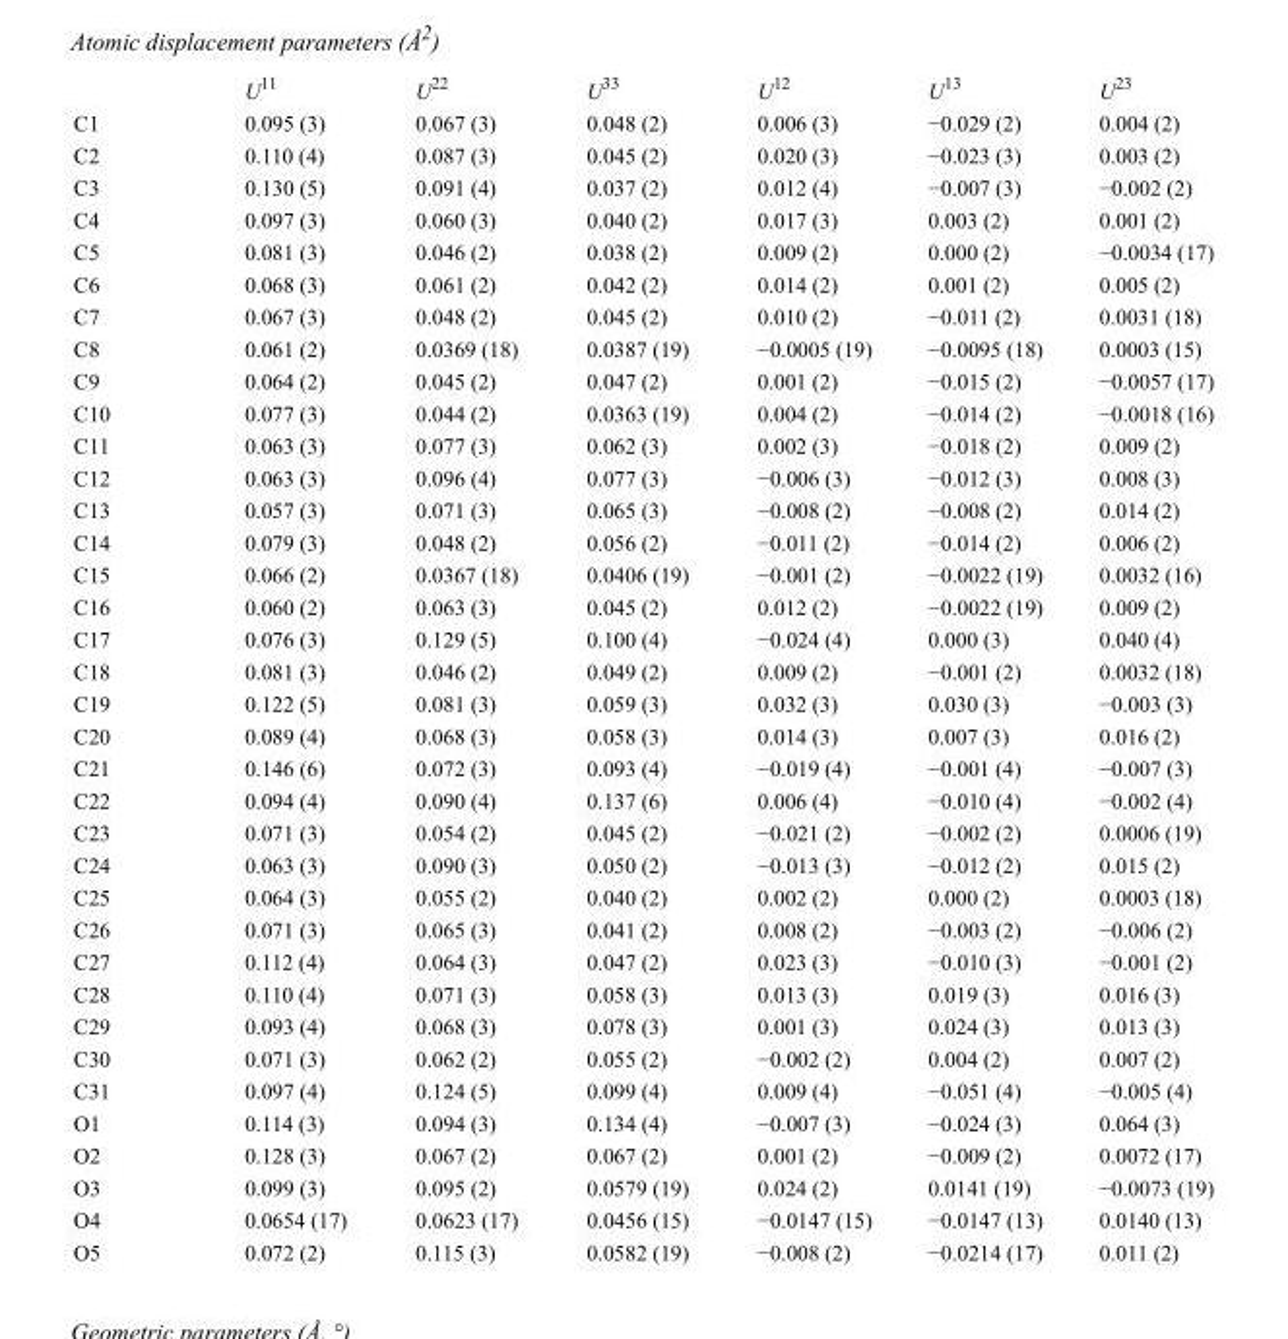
<table><thead><tr><td></td><td>U<sup>11</sup></td><td>U<sup>22</sup></td><td>U<sup>33</sup></td><td>U<sup>12</sup></td><td>U<sup>13</sup></td><td>U<sup>23</sup></td></tr></thead><tbody><tr><td>C1</td><td>0.095 (3)</td><td>0.067 (3)</td><td>0.048 (2)</td><td>0.006 (3)</td><td>−0.029 (2)</td><td>0.004 (2)</td></tr><tr><td>C2</td><td>0.110 (4)</td><td>0.087 (3)</td><td>0.045 (2)</td><td>0.020 (3)</td><td>−0.023 (3)</td><td>0.003 (2)</td></tr><tr><td>C3</td><td>0.130 (5)</td><td>0.091 (4)</td><td>0.037 (2)</td><td>0.012 (4)</td><td>−0.007 (3)</td><td>−0.002 (2)</td></tr><tr><td>C4</td><td>0.097 (3)</td><td>0.060 (3)</td><td>0.040 (2)</td><td>0.017 (3)</td><td>0.003 (2)</td><td>0.001 (2)</td></tr><tr><td>C5</td><td>0.081 (3)</td><td>0.046 (2)</td><td>0.038 (2)</td><td>0.009 (2)</td><td>0.000 (2)</td><td>−0.0034 (17)</td></tr><tr><td>C6</td><td>0.068 (3)</td><td>0.061 (2)</td><td>0.042 (2)</td><td>0.014 (2)</td><td>0.001 (2)</td><td>0.005 (2)</td></tr><tr><td>C7</td><td>0.067 (3)</td><td>0.048 (2)</td><td>0.045 (2)</td><td>0.010 (2)</td><td>−0.011 (2)</td><td>0.0031 (18)</td></tr><tr><td>C8</td><td>0.061 (2)</td><td>0.0369 (18)</td><td>0.0387 (19)</td><td>−0.0005 (19)</td><td>−0.0095 (18)</td><td>0.0003 (15)</td></tr><tr><td>C9</td><td>0.064 (2)</td><td>0.045 (2)</td><td>0.047 (2)</td><td>0.001 (2)</td><td>−0.015 (2)</td><td>−0.0057 (17)</td></tr><tr><td>C10</td><td>0.077 (3)</td><td>0.044 (2)</td><td>0.0363 (19)</td><td>0.004 (2)</td><td>−0.014 (2)</td><td>−0.0018 (16)</td></tr><tr><td>C11</td><td>0.063 (3)</td><td>0.077 (3)</td><td>0.062 (3)</td><td>0.002 (3)</td><td>−0.018 (2)</td><td>0.009 (2)</td></tr><tr><td>C12</td><td>0.063 (3)</td><td>0.096 (4)</td><td>0.077 (3)</td><td>−0.006 (3)</td><td>−0.012 (3)</td><td>0.008 (3)</td></tr><tr><td>C13</td><td>0.057 (3)</td><td>0.071 (3)</td><td>0.065 (3)</td><td>−0.008 (2)</td><td>−0.008 (2)</td><td>0.014 (2)</td></tr><tr><td>C14</td><td>0.079 (3)</td><td>0.048 (2)</td><td>0.056 (2)</td><td>−0.011 (2)</td><td>−0.014 (2)</td><td>0.006 (2)</td></tr><tr><td>C15</td><td>0.066 (2)</td><td>0.0367 (18)</td><td>0.0406 (19)</td><td>−0.001 (2)</td><td>−0.0022 (19)</td><td>0.0032 (16)</td></tr><tr><td>C16</td><td>0.060 (2)</td><td>0.063 (3)</td><td>0.045 (2)</td><td>0.012 (2)</td><td>−0.0022 (19)</td><td>0.009 (2)</td></tr><tr><td>C17</td><td>0.076 (3)</td><td>0.129 (5)</td><td>0.100 (4)</td><td>−0.024 (4)</td><td>0.000 (3)</td><td>0.040 (4)</td></tr><tr><td>C18</td><td>0.081 (3)</td><td>0.046 (2)</td><td>0.049 (2)</td><td>0.009 (2)</td><td>−0.001 (2)</td><td>0.0032 (18)</td></tr><tr><td>C19</td><td>0.122 (5)</td><td>0.081 (3)</td><td>0.059 (3)</td><td>0.032 (3)</td><td>0.030 (3)</td><td>−0.003 (3)</td></tr><tr><td>C20</td><td>0.089 (4)</td><td>0.068 (3)</td><td>0.058 (3)</td><td>0.014 (3)</td><td>0.007 (3)</td><td>0.016 (2)</td></tr><tr><td>C21</td><td>0.146 (6)</td><td>0.072 (3)</td><td>0.093 (4)</td><td>−0.019 (4)</td><td>−0.001 (4)</td><td>−0.007 (3)</td></tr><tr><td>C22</td><td>0.094 (4)</td><td>0.090 (4)</td><td>0.137 (6)</td><td>0.006 (4)</td><td>−0.010 (4)</td><td>−0.002 (4)</td></tr><tr><td>C23</td><td>0.071 (3)</td><td>0.054 (2)</td><td>0.045 (2)</td><td>−0.021 (2)</td><td>−0.002 (2)</td><td>0.0006 (19)</td></tr><tr><td>C24</td><td>0.063 (3)</td><td>0.090 (3)</td><td>0.050 (2)</td><td>−0.013 (3)</td><td>−0.012 (2)</td><td>0.015 (2)</td></tr><tr><td>C25</td><td>0.064 (3)</td><td>0.055 (2)</td><td>0.040 (2)</td><td>0.002 (2)</td><td>0.000 (2)</td><td>0.0003 (18)</td></tr><tr><td>C26</td><td>0.071 (3)</td><td>0.065 (3)</td><td>0.041 (2)</td><td>0.008 (2)</td><td>−0.003 (2)</td><td>−0.006 (2)</td></tr><tr><td>C27</td><td>0.112 (4)</td><td>0.064 (3)</td><td>0.047 (2)</td><td>0.023 (3)</td><td>−0.010 (3)</td><td>−0.001 (2)</td></tr><tr><td>C28</td><td>0.110 (4)</td><td>0.071 (3)</td><td>0.058 (3)</td><td>0.013 (3)</td><td>0.019 (3)</td><td>0.016 (3)</td></tr><tr><td>C29</td><td>0.093 (4)</td><td>0.068 (3)</td><td>0.078 (3)</td><td>0.001 (3)</td><td>0.024 (3)</td><td>0.013 (3)</td></tr><tr><td>C30</td><td>0.071 (3)</td><td>0.062 (2)</td><td>0.055 (2)</td><td>−0.002 (2)</td><td>0.004 (2)</td><td>0.007 (2)</td></tr><tr><td>C31</td><td>0.097 (4)</td><td>0.124 (5)</td><td>0.099 (4)</td><td>0.009 (4)</td><td>−0.051 (4)</td><td>−0.005 (4)</td></tr><tr><td>O1</td><td>0.114 (3)</td><td>0.094 (3)</td><td>0.134 (4)</td><td>−0.007 (3)</td><td>−0.024 (3)</td><td>0.064 (3)</td></tr><tr><td>O2</td><td>0.128 (3)</td><td>0.067 (2)</td><td>0.067 (2)</td><td>0.001 (2)</td><td>−0.009 (2)</td><td>0.0072 (17)</td></tr><tr><td>O3</td><td>0.099 (3)</td><td>0.095 (2)</td><td>0.0579 (19)</td><td>0.024 (2)</td><td>0.0141 (19)</td><td>−0.0073 (19)</td></tr><tr><td>O4</td><td>0.0654 (17)</td><td>0.0623 (17)</td><td>0.0456 (15)</td><td>−0.0147 (15)</td><td>−0.0147 (13)</td><td>0.0140 (13)</td></tr><tr><td>O5</td><td>0.072 (2)</td><td>0.115 (3)</td><td>0.0582 (19)</td><td>−0.008 (2)</td><td>−0.0214 (17)</td><td>0.011 (2)</td></tr></tbody></table>